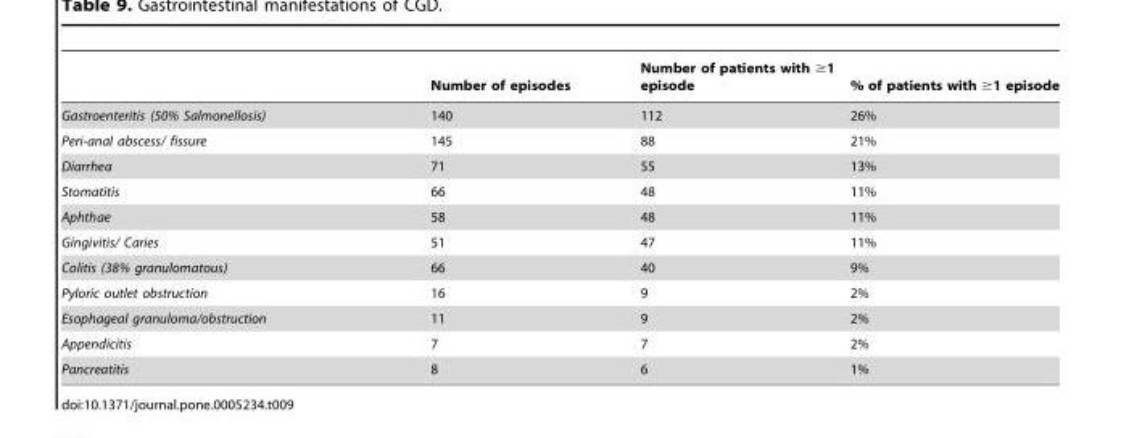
<table><thead><tr><td></td><td>Number of episodes</td><td>Number of patients with ≥1 episode</td><td>% of patients with ≥1 episode</td></tr></thead><tbody><tr><td>Gastroenteritis (50% Salmonellosis)</td><td>140</td><td>112</td><td>26%</td></tr><tr><td>Peri-anal abscess/ fissure</td><td>145</td><td>88</td><td>21%</td></tr><tr><td>Diarrhea</td><td>71</td><td>55</td><td>13%</td></tr><tr><td>Stomatitis</td><td>66</td><td>48</td><td>11%</td></tr><tr><td>Aphthae</td><td>58</td><td>48</td><td>11%</td></tr><tr><td>Gingivitis/ Caries</td><td>51</td><td>47</td><td>11%</td></tr><tr><td>Colitis (38% granulomatous)</td><td>66</td><td>40</td><td>9%</td></tr><tr><td>Pyloric outlet obstruction</td><td>16</td><td>9</td><td>2%</td></tr><tr><td>Esophageal granuloma/obstruction</td><td>11</td><td>9</td><td>2%</td></tr><tr><td>Appendicitis</td><td>7</td><td>7</td><td>2%</td></tr><tr><td>Pancreatitis</td><td>8</td><td>6</td><td>1%</td></tr></tbody></table>